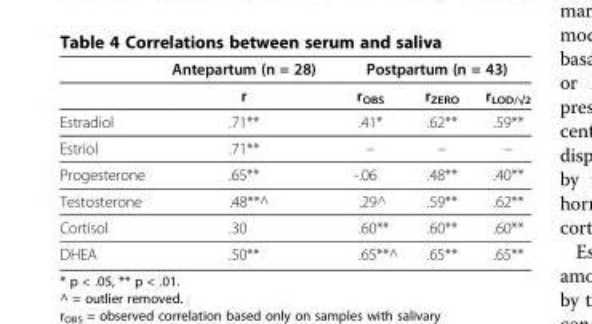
<table><thead><tr><td rowspan="2"></td><td rowspan="2">Antepartum (n = 28) r</td><td colspan="3">Postpartum (n = 43)</td></tr><tr><td>r<sub>OBS</sub></td><td>r<sub>ZERO</sub></td><td>r<sub>LOD/√2</sub></td></tr></thead><tbody><tr><td>Estradiol</td><td>.71**</td><td>.41*</td><td>.62**</td><td>.59**</td></tr><tr><td>Estriol</td><td>.71**</td><td>–</td><td>–</td><td>–</td></tr><tr><td>Progesterone</td><td>.65**</td><td>-.06</td><td>.48**</td><td>.40**</td></tr><tr><td>Testosterone</td><td>.48**^</td><td>.29^</td><td>.59**</td><td>.62**</td></tr><tr><td>Cortisol</td><td>.30</td><td>.60**</td><td>.60**</td><td>.60**</td></tr><tr><td>DHEA</td><td>.50**</td><td>.65**^</td><td>.65**</td><td>.65**</td></tr></tbody></table>